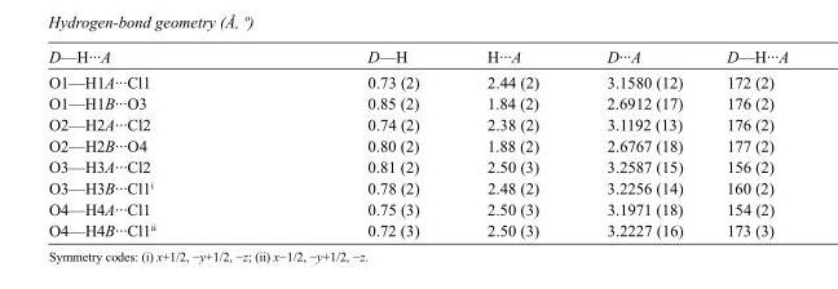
<table><tbody><tr><td>D—H···A</td><td>D—H</td><td>H···A</td><td>D···A</td><td>D—H···A</td></tr><tr><td>O1—H1A···Cl1</td><td>0.73 (2)</td><td>2.44 (2)</td><td>3.1580 (12)</td><td>172 (2)</td></tr><tr><td>O1—H1B···O3</td><td>0.85 (2)</td><td>1.84 (2)</td><td>2.6912 (17)</td><td>176 (2)</td></tr><tr><td>O2—H2A···Cl2</td><td>0.74 (2)</td><td>2.38 (2)</td><td>3.1192 (13)</td><td>176 (2)</td></tr><tr><td>O2—H2B···O4</td><td>0.80 (2)</td><td>1.88 (2)</td><td>2.6767 (18)</td><td>177 (2)</td></tr><tr><td>O3—H3A···Cl2</td><td>0.81 (2)</td><td>2.50 (3)</td><td>3.2587 (15)</td><td>156 (2)</td></tr><tr><td>O3—H3B···Cl1<sup>i</sup></td><td>0.78 (2)</td><td>2.48 (2)</td><td>3.2256 (14)</td><td>160 (2)</td></tr><tr><td>O4—H4A···Cl1</td><td>0.75 (3)</td><td>2.50 (3)</td><td>3.1971 (18)</td><td>154 (2)</td></tr><tr><td>O4—H4B···Cl1<sup>ii</sup></td><td>0.72 (3)</td><td>2.50 (3)</td><td>3.2227 (16)</td><td>173 (3)</td></tr></tbody></table>